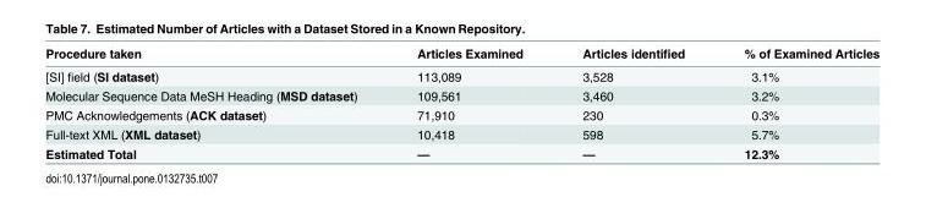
<table><thead><tr><td>Procedure taken</td><td>Articles Examined</td><td>Articles identified</td><td>% of Examined Articles</td></tr></thead><tbody><tr><td>[SI] field (SI dataset)</td><td>113,089</td><td>3,528</td><td>3.1%</td></tr><tr><td>Molecular Sequence Data MeSH Heading (MSD dataset)</td><td>109,561</td><td>3,460</td><td>3.2%</td></tr><tr><td>PMC Acknowledgements (ACK dataset)</td><td>71,910</td><td>230</td><td>0.3%</td></tr><tr><td>Full-text XML (XML dataset)</td><td>10,418</td><td>598</td><td>5.7%</td></tr><tr><td>Estimated Total</td><td>—</td><td>—</td><td>12.3%</td></tr></tbody></table>